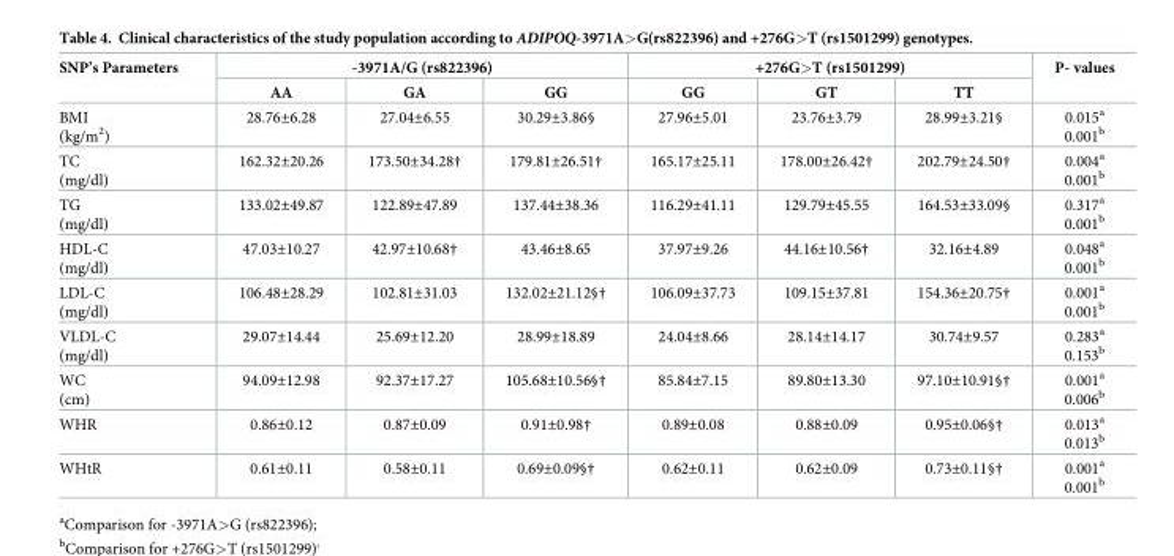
<table><thead><tr><td rowspan="2">SNP’s Parameters</td><td colspan="3">-3971A/G (rs822396)</td><td colspan="3">+276G&gt;T (rs1501299)</td><td rowspan="2">P- values</td></tr><tr><td>AA</td><td>GA</td><td>GG</td><td>GG</td><td>GT</td><td>TT</td></tr></thead><tbody><tr><td>BMI (kg/m<sup>2</sup>)</td><td>28.76±6.28</td><td>27.04±6.55</td><td>30.29±3.86§</td><td>27.96±5.01</td><td>23.76±3.79</td><td>28.99±3.21§</td><td>0.015<sup>a</sup> 0.001<sup>b</sup></td></tr><tr><td>TC (mg/dl)</td><td>162.32±20.26</td><td>173.50±34.28†</td><td>179.81±26.51†</td><td>165.17±25.11</td><td>178.00±26.42†</td><td>202.79±24.50†</td><td>0.004<sup>a</sup> 0.001<sup>b</sup></td></tr><tr><td>TG (mg/dl)</td><td>133.02±49.87</td><td>122.89±47.89</td><td>137.44±38.36</td><td>116.29±41.11</td><td>129.79±45.55</td><td>164.53±33.09§</td><td>0.317<sup>a</sup> 0.001<sup>b</sup></td></tr><tr><td>HDL-C (mg/dl)</td><td>47.03±10.27</td><td>42.97±10.68†</td><td>43.46±8.65</td><td>37.97±9.26</td><td>44.16±10.56†</td><td>32.16±4.89</td><td>0.048<sup>a</sup> 0.001<sup>b</sup></td></tr><tr><td>LDL-C (mg/dl)</td><td>106.48±28.29</td><td>102.81±31.03</td><td>132.02±21.12§†</td><td>106.09±37.73</td><td>109.15±37.81</td><td>154.36±20.75†</td><td>0.001<sup>a</sup> 0.001<sup>b</sup></td></tr><tr><td>VLDL-C (mg/dl)</td><td>29.07±14.44</td><td>25.69±12.20</td><td>28.99±18.89</td><td>24.04±8.66</td><td>28.14±14.17</td><td>30.74±9.57</td><td>0.283<sup>a</sup> 0.153<sup>b</sup></td></tr><tr><td>WC (cm)</td><td>94.09±12.98</td><td>92.37±17.27</td><td>105.68±10.56§†</td><td>85.84±7.15</td><td>89.80±13.30</td><td>97.10±10.91§†</td><td>0.001<sup>a</sup> 0.006<sup>b</sup></td></tr><tr><td>WHR</td><td>0.86±0.12</td><td>0.87±0.09</td><td>0.91±0.98†</td><td>0.89±0.08</td><td>0.88±0.09</td><td>0.95±0.06§†</td><td>0.013<sup>a</sup> 0.013<sup>b</sup></td></tr><tr><td>WHtR</td><td>0.61±0.11</td><td>0.58±0.11</td><td>0.69±0.09§†</td><td>0.62±0.11</td><td>0.62±0.09</td><td>0.73±0.11§†</td><td>0.001<sup>a</sup> 0.001<sup>b</sup></td></tr></tbody></table>